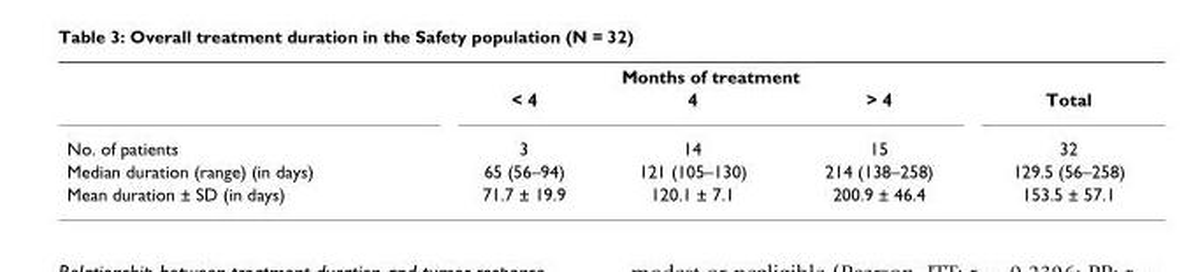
<table><thead><tr><td rowspan="2"></td><td colspan="3">Months of treatment</td><td rowspan="2">Total</td></tr><tr><td>&lt; 4</td><td>4</td><td>&gt; 4</td></tr></thead><tbody><tr><td>No. of patients</td><td>3</td><td>14</td><td>15</td><td>32</td></tr><tr><td>Median duration (range) (in days)</td><td>65 (56–94)</td><td>121 (105–130)</td><td>214 (138–258)</td><td>129.5 (56–258)</td></tr><tr><td>Mean duration ± SD (in days)</td><td>71.7 ± 19.9</td><td>120.1 ± 7.1</td><td>200.9 ± 46.4</td><td>153.5 ± 57.1</td></tr></tbody></table>